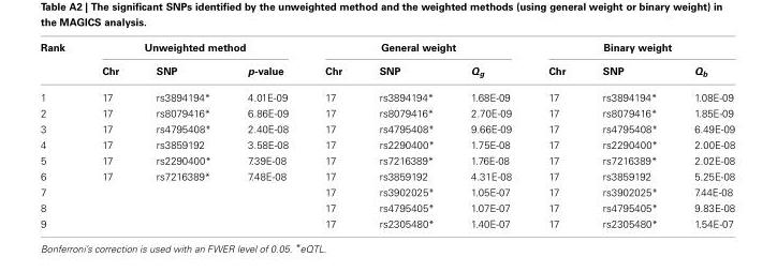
<table><thead><tr><td rowspan="2">Rank</td><td colspan="3">Unweighted method</td><td colspan="3">General weight</td><td colspan="3">Binary weight</td></tr><tr><td>Chr</td><td>SNP</td><td>p-value</td><td>Chr</td><td>SNP</td><td>Q<sub>g</sub></td><td>Chr</td><td>SNP</td><td>Q<sub>b</sub></td></tr></thead><tbody><tr><td>1</td><td>17</td><td>rs3894194*</td><td>4.01E-09</td><td>17</td><td>rs3894194*</td><td>1.68E-09</td><td>17</td><td>rs3894194*</td><td>1.08E-09</td></tr><tr><td>2</td><td>17</td><td>rs8079416*</td><td>6.86E-09</td><td>17</td><td>rs8079416*</td><td>2.70E-09</td><td>17</td><td>rs8079416*</td><td>1.85E-09</td></tr><tr><td>3</td><td>17</td><td>rs4795408*</td><td>2.40E-08</td><td>17</td><td>rs4795408*</td><td>9.66E-09</td><td>17</td><td>rs4795408*</td><td>6.49E-09</td></tr><tr><td>4</td><td>17</td><td>rs3859192</td><td>3.58E-08</td><td>17</td><td>rs2290400*</td><td>1.75E-08</td><td>17</td><td>rs2290400*</td><td>2.00E-08</td></tr><tr><td>5</td><td>17</td><td>rs2290400*</td><td>7.39E-08</td><td>17</td><td>rs7216389*</td><td>1.76E-08</td><td>17</td><td>rs7216389*</td><td>2.02E-08</td></tr><tr><td>6</td><td>17</td><td>rs7216389*</td><td>7.48E-08</td><td>17</td><td>rs3859192</td><td>4.31E-08</td><td>17</td><td>rs3859192</td><td>5.25E-08</td></tr><tr><td>7</td><td></td><td></td><td></td><td>17</td><td>rs3902025*</td><td>1.05E-07</td><td>17</td><td>rs3902025*</td><td>7.44E-08</td></tr><tr><td>8</td><td></td><td></td><td></td><td>17</td><td>rs4795405*</td><td>1.07E-07</td><td>17</td><td>rs4795405*</td><td>9.83E-08</td></tr><tr><td>9</td><td></td><td></td><td></td><td>17</td><td>rs2305480*</td><td>1.40E-07</td><td>17</td><td>rs2305480*</td><td>1.54E-07</td></tr></tbody></table>